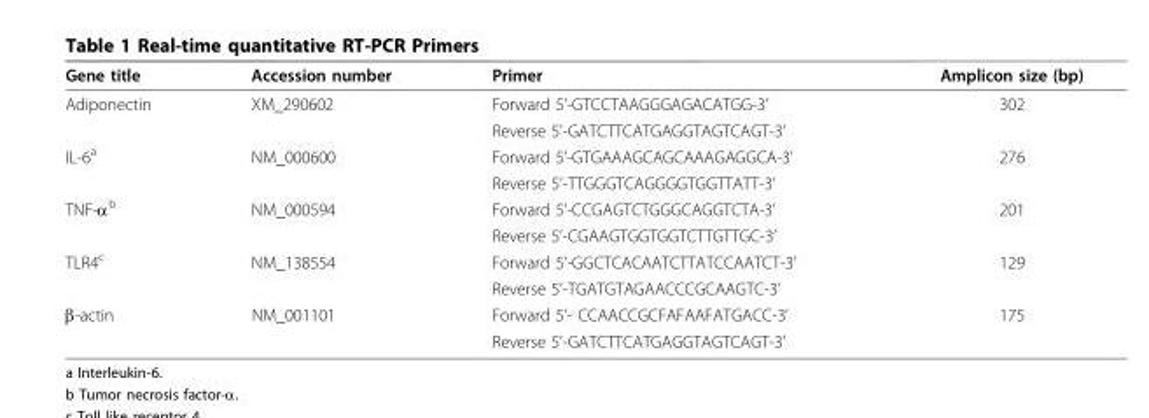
<table><thead><tr><td>Gene title</td><td>Accession number</td><td>Primer</td><td>Amplicon size (bp)</td></tr></thead><tbody><tr><td rowspan="2">Adiponectin</td><td>XM_290602</td><td>Forward 5’-GTCCTAAGGGAGACATGG-3’</td><td>302</td></tr><tr><td></td><td>Reverse 5’-GATCTTCATGAGGTAGTCAGT-3’</td><td></td></tr><tr><td rowspan="2">IL-6<sup>a</sup></td><td>NM_000600</td><td>Forward 5’-GTGAAAGCAGCAAAGAGGCA-3’</td><td>276</td></tr><tr><td></td><td>Reverse 5’-TTGGGTCAGGGGTGGTTATT-3’</td><td></td></tr><tr><td rowspan="2">TNF-α<sup>b</sup></td><td>NM_000594</td><td>Forward 5’-CCGAGTCTGGGCAGGTCTA-3’</td><td>201</td></tr><tr><td></td><td>Reverse 5’-CGAAGTGGTGGTCTTGTTGC-3’</td><td></td></tr><tr><td rowspan="2">TLR4<sup>c</sup></td><td>NM_138554</td><td>Forward 5’-GGCTCACAATCTTATCCAATCT-3’</td><td>129</td></tr><tr><td></td><td>Reverse 5’-TGATGTAGAACCCGCAAGTC-3’</td><td></td></tr><tr><td rowspan="2">β-actin</td><td>NM_001101</td><td>Forward 5’- CCAACCGCFAFAAFATGACC-3’</td><td>175</td></tr><tr><td></td><td>Reverse 5’-GATCTTCATGAGGTAGTCAGT-3’</td><td></td></tr></tbody></table>